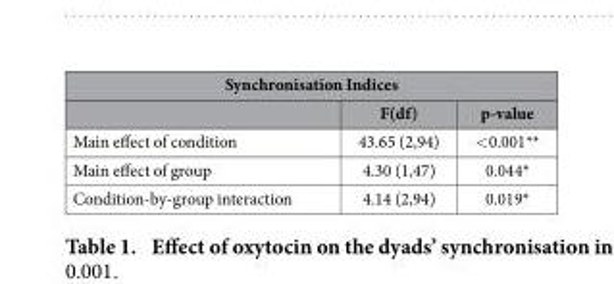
<table><thead><tr><td colspan="3">Synchronisation Indices</td></tr><tr><td></td><td>F(df)</td><td>p-value</td></tr></thead><tbody><tr><td>Main effect of condition</td><td>43.65 (2,94)</td><td>&lt; 0.001**</td></tr><tr><td>Main effect of group</td><td>4.30 (1,47)</td><td>0.044*</td></tr><tr><td>Condition-by-group interaction</td><td>4.14 (2,94)</td><td>0.019*</td></tr></tbody></table>